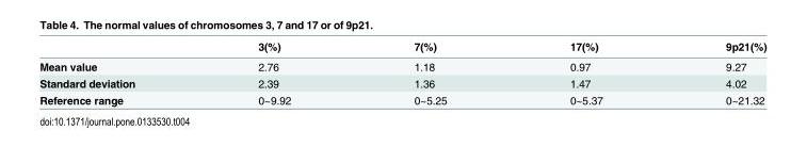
<table><thead><tr><td></td><td>3(%)</td><td>7(%)</td><td>17(%)</td><td>9p21(%)</td></tr></thead><tbody><tr><td>Mean value</td><td>2.76</td><td>1.18</td><td>0.97</td><td>9.27</td></tr><tr><td>Standard deviation</td><td>2.39</td><td>1.36</td><td>1.47</td><td>4.02</td></tr><tr><td>Reference range</td><td>0~9.92</td><td>0~5.25</td><td>0~5.37</td><td>0~21.32</td></tr></tbody></table>